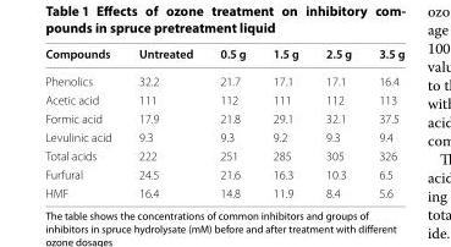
<table><thead><tr><td>Compounds</td><td>Untreated</td><td>0.5 g</td><td>1.5 g</td><td>2.5 g</td><td>3.5 g</td></tr></thead><tbody><tr><td>Phenolics</td><td>32.2</td><td>21.7</td><td>17.1</td><td>17.1</td><td>16.4</td></tr><tr><td>Acetic acid</td><td>111</td><td>112</td><td>111</td><td>112</td><td>113</td></tr><tr><td>Formic acid</td><td>17.9</td><td>21.8</td><td>29.1</td><td>32.1</td><td>37.5</td></tr><tr><td>Levulinic acid</td><td>9.3</td><td>9.3</td><td>9.2</td><td>9.3</td><td>9.4</td></tr><tr><td>Total acids</td><td>222</td><td>251</td><td>285</td><td>305</td><td>326</td></tr><tr><td>Furfural</td><td>24.5</td><td>21.6</td><td>16.3</td><td>10.3</td><td>6.5</td></tr><tr><td>HMF</td><td>16.4</td><td>14.8</td><td>11.9</td><td>8.4</td><td>5.6</td></tr></tbody></table>